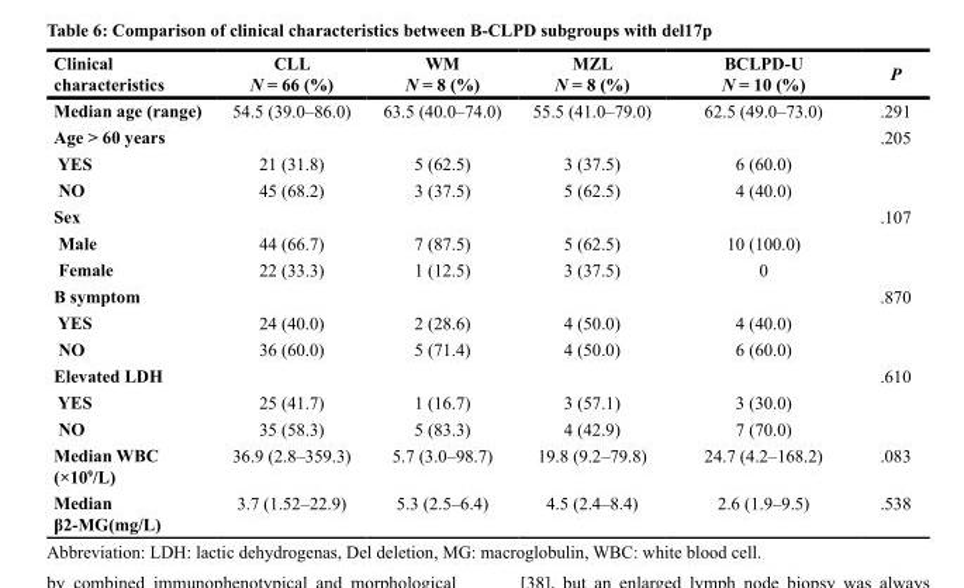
<table><thead><tr><td>Clinical characteristics</td><td>CLL N = 66 (%)</td><td>WM N = 8 (%)</td><td>MZL N = 8 (%)</td><td>BCLPD-U N = 10 (%)</td><td>P</td></tr></thead><tbody><tr><td>Median age (range)</td><td>54.5 (39.0–86.0)</td><td>63.5 (40.0–74.0)</td><td>55.5 (41.0–79.0)</td><td>62.5 (49.0–73.0)</td><td>.291</td></tr><tr><td>Age &gt; 60 years</td><td></td><td></td><td></td><td></td><td>.205</td></tr><tr><td>YES</td><td>21 (31.8)</td><td>5 (62.5)</td><td>3 (37.5)</td><td>6 (60.0)</td><td></td></tr><tr><td>NO</td><td>45 (68.2)</td><td>3 (37.5)</td><td>5 (62.5)</td><td>4 (40.0)</td><td></td></tr><tr><td>Sex</td><td></td><td></td><td></td><td></td><td>.107</td></tr><tr><td>Male</td><td>44 (66.7)</td><td>7 (87.5)</td><td>5 (62.5)</td><td>10 (100.0)</td><td></td></tr><tr><td>Female</td><td>22 (33.3)</td><td>1 (12.5)</td><td>3 (37.5)</td><td>0</td><td></td></tr><tr><td>B symptom</td><td></td><td></td><td></td><td></td><td>.870</td></tr><tr><td>YES</td><td>24 (40.0)</td><td>2 (28.6)</td><td>4 (50.0)</td><td>4 (40.0)</td><td></td></tr><tr><td>NO</td><td>36 (60.0)</td><td>5 (71.4)</td><td>4 (50.0)</td><td>6 (60.0)</td><td></td></tr><tr><td>Elevated LDH</td><td></td><td></td><td></td><td></td><td>.610</td></tr><tr><td>YES</td><td>25 (41.7)</td><td>1 (16.7)</td><td>3 (57.1)</td><td>3 (30.0)</td><td></td></tr><tr><td>NO</td><td>35 (58.3)</td><td>5 (83.3)</td><td>4 (42.9)</td><td>7 (70.0)</td><td></td></tr><tr><td>Median WBC (×10<sup>9</sup>/L)</td><td>36.9 (2.8–359.3)</td><td>5.7 (3.0–98.7)</td><td>19.8 (9.2–79.8)</td><td>24.7 (4.2–168.2)</td><td>.083</td></tr><tr><td>Median β2-MG(mg/L)</td><td>3.7 (1.52–22.9)</td><td>5.3 (2.5–6.4)</td><td>4.5 (2.4–8.4)</td><td>2.6 (1.9–9.5)</td><td>.538</td></tr></tbody></table>